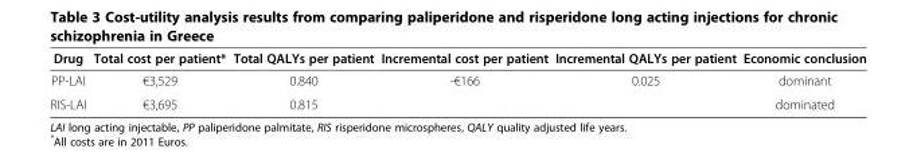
<table><thead><tr><td>Drug</td><td>Total cost per patient*</td><td>Total QALYs per patient</td><td>Incremental cost per patient</td><td>Incremental QALYs per patient</td><td>Economic conclusion</td></tr></thead><tbody><tr><td>PP-LAI</td><td>€3,529</td><td>0.840</td><td>-€166</td><td>0.025</td><td>dominant</td></tr><tr><td>RIS-LAI</td><td>€3,695</td><td>0.815</td><td></td><td></td><td>dominated</td></tr></tbody></table>